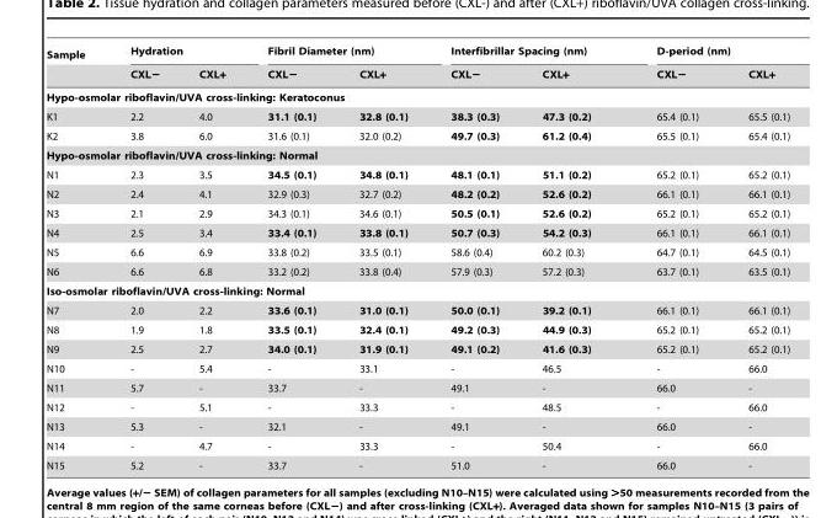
<table><thead><tr><td rowspan="2">Sample</td><td colspan="2">Hydration</td><td colspan="2">Fibril Diameter (nm)</td><td colspan="2">Interfibrillar Spacing (nm)</td><td colspan="2">D-period (nm)</td></tr><tr><td>CXL−</td><td>CXL+</td><td>CXL−</td><td>CXL+</td><td>CXL−</td><td>CXL+</td><td>CXL−</td><td>CXL+</td></tr></thead><tbody><tr><td colspan="9">Hypo-osmolar riboflavin/UVA cross-linking: Keratoconus</td></tr><tr><td>K1</td><td>2.2</td><td>4.0</td><td>31.1 (0.1)</td><td>32.8 (0.1)</td><td>38.3 (0.3)</td><td>47.3 (0.2)</td><td>65.4 (0.1)</td><td>65.5 (0.1)</td></tr><tr><td>K2</td><td>3.8</td><td>6.0</td><td>31.6 (0.1)</td><td>32.0 (0.2)</td><td>49.7 (0.3)</td><td>61.2 (0.4)</td><td>65.5 (0.1)</td><td>65.4 (0.1)</td></tr><tr><td colspan="9">Hypo-osmolar riboflavin/UVA cross-linking: Normal</td></tr><tr><td>N1</td><td>2.3</td><td>3.5</td><td>34.5 (0.1)</td><td>34.8 (0.1)</td><td>48.1 (0.1)</td><td>51.1 (0.2)</td><td>65.2 (0.1)</td><td>65.2 (0.1)</td></tr><tr><td>N2</td><td>2.4</td><td>4.1</td><td>32.9 (0.3)</td><td>32.7 (0.2)</td><td>48.2 (0.2)</td><td>52.6 (0.2)</td><td>66.1 (0.1)</td><td>66.1 (0.1)</td></tr><tr><td>N3</td><td>2.1</td><td>2.9</td><td>34.3 (0.1)</td><td>34.6 (0.1)</td><td>50.5 (0.1)</td><td>52.6 (0.2)</td><td>65.2 (0.1)</td><td>65.2 (0.1)</td></tr><tr><td>N4</td><td>2.5</td><td>3.4</td><td>33.4 (0.1)</td><td>33.8 (0.1)</td><td>50.7 (0.3)</td><td>54.2 (0.3)</td><td>66.1 (0.1)</td><td>66.1 (0.1)</td></tr><tr><td>N5</td><td>6.6</td><td>6.9</td><td>33.8 (0.2)</td><td>33.5 (0.1)</td><td>58.6 (0.4)</td><td>60.2 (0.3)</td><td>64.7 (0.1)</td><td>64.5 (0.1)</td></tr><tr><td>N6</td><td>6.6</td><td>6.8</td><td>33.2 (0.2)</td><td>33.8 (0.4)</td><td>57.9 (0.3)</td><td>57.2 (0.3)</td><td>63.7 (0.1)</td><td>63.5 (0.1)</td></tr><tr><td colspan="9">Iso-osmolar riboflavin/UVA cross-linking: Normal</td></tr><tr><td>N7</td><td>2.0</td><td>2.2</td><td>33.6 (0.1)</td><td>31.0 (0.1)</td><td>50.0 (0.1)</td><td>39.2 (0.1)</td><td>66.1 (0.1)</td><td>66.1 (0.1)</td></tr><tr><td>N8</td><td>1.9</td><td>1.8</td><td>33.5 (0.1)</td><td>32.4 (0.1)</td><td>49.2 (0.3)</td><td>44.9 (0.3)</td><td>65.2 (0.1)</td><td>65.2 (0.1)</td></tr><tr><td>N9</td><td>2.5</td><td>2.7</td><td>34.0 (0.1)</td><td>31.9 (0.1)</td><td>49.1 (0.2)</td><td>41.6 (0.3)</td><td>65.2 (0.1)</td><td>65.2 (0.1)</td></tr><tr><td>N10</td><td>-</td><td>5.4</td><td>-</td><td>33.1</td><td>-</td><td>46.5</td><td>-</td><td>66.0</td></tr><tr><td>N11</td><td>5.7</td><td>-</td><td>33.7</td><td>-</td><td>49.1</td><td>-</td><td>66.0</td><td>-</td></tr><tr><td>N12</td><td>-</td><td>5.1</td><td>-</td><td>33.3</td><td>-</td><td>48.5</td><td>-</td><td>66.0</td></tr><tr><td>N13</td><td>5.3</td><td>-</td><td>32.1</td><td>-</td><td>49.1</td><td>-</td><td>66.0</td><td>-</td></tr><tr><td>N14</td><td>-</td><td>4.7</td><td>-</td><td>33.3</td><td>-</td><td>50.4</td><td>-</td><td>66.0</td></tr><tr><td>N15</td><td>5.2</td><td>-</td><td>33.7</td><td>-</td><td>51.0</td><td>-</td><td>66.0</td><td>-</td></tr></tbody></table>